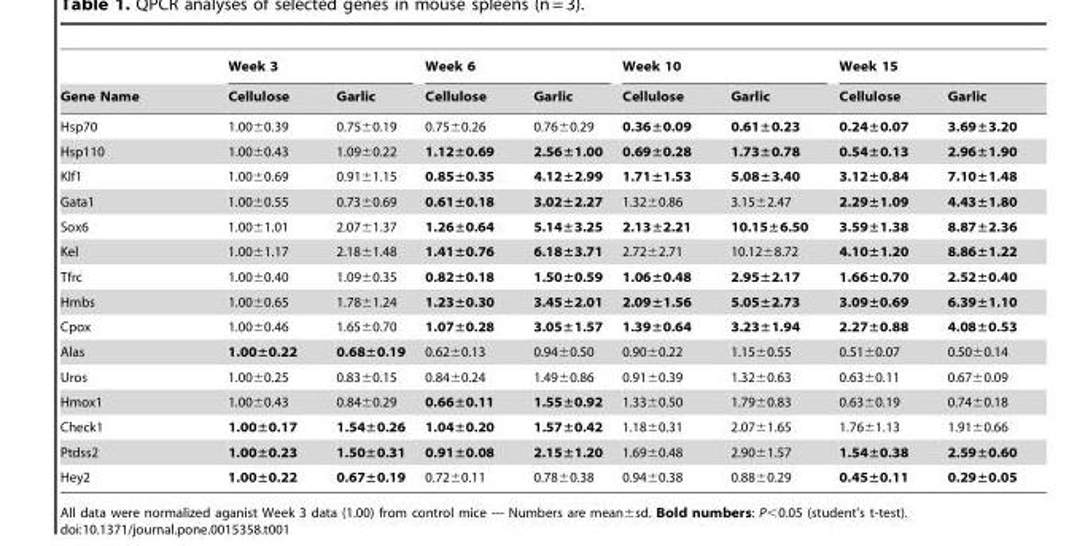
<table><thead><tr><td rowspan="2">Gene Name</td><td colspan="2">Week 3</td><td colspan="2">Week 6</td><td colspan="2">Week 10</td><td colspan="2">Week 15</td></tr><tr><td>Cellulose</td><td>Garlic</td><td>Cellulose</td><td>Garlic</td><td>Cellulose</td><td>Garlic</td><td>Cellulose</td><td>Garlic</td></tr></thead><tbody><tr><td>Hsp70</td><td>1.00±0.39</td><td>0.75±0.19</td><td>0.75±0.26</td><td>0.76±0.29</td><td>0.36±0.09</td><td>0.61±0.23</td><td>0.24±0.07</td><td>3.69±3.20</td></tr><tr><td>Hsp110</td><td>1.00±0.43</td><td>1.09±0.22</td><td>1.12±0.69</td><td>2.56±1.00</td><td>0.69±0.28</td><td>1.73±0.78</td><td>0.54±0.13</td><td>2.96±1.90</td></tr><tr><td>Klf1</td><td>1.00±0.69</td><td>0.91±1.15</td><td>0.85±0.35</td><td>4.12±2.99</td><td>1.71±1.53</td><td>5.08±3.40</td><td>3.12±0.84</td><td>7.10±1.48</td></tr><tr><td>Gata1</td><td>1.00±0.55</td><td>0.73±0.69</td><td>0.61±0.18</td><td>3.02±2.27</td><td>1.32±0.86</td><td>3.15±2.47</td><td>2.29±1.09</td><td>4.43±1.80</td></tr><tr><td>Sox6</td><td>1.00±1.01</td><td>2.07±1.37</td><td>1.26±0.64</td><td>5.14±3.25</td><td>2.13±2.21</td><td>10.15±6.50</td><td>3.59±1.38</td><td>8.87±2.36</td></tr><tr><td>Kel</td><td>1.00±1.17</td><td>2.18±1.48</td><td>1.41±0.76</td><td>6.18±3.71</td><td>2.72±2.71</td><td>10.12±8.72</td><td>4.10±1.20</td><td>8.86±1.22</td></tr><tr><td>Tfrc</td><td>1.00±0.40</td><td>1.09±0.35</td><td>0.82±0.18</td><td>1.50±0.59</td><td>1.06±0.48</td><td>2.95±2.17</td><td>1.66±0.70</td><td>2.52±0.40</td></tr><tr><td>Hmbs</td><td>1.00±0.65</td><td>1.78±1.24</td><td>1.23±0.30</td><td>3.45±2.01</td><td>2.09±1.56</td><td>5.05±2.73</td><td>3.09±0.69</td><td>6.39±1.10</td></tr><tr><td>Cpox</td><td>1.00±0.46</td><td>1.65±0.70</td><td>1.07±0.28</td><td>3.05±1.57</td><td>1.39±0.64</td><td>3.23±1.94</td><td>2.27±0.88</td><td>4.08±0.53</td></tr><tr><td>Alas</td><td>1.00±0.22</td><td>0.68±0.19</td><td>0.62±0.13</td><td>0.94±0.50</td><td>0.90±0.22</td><td>1.15±0.55</td><td>0.51±0.07</td><td>0.50±0.14</td></tr><tr><td>Uros</td><td>1.00±0.25</td><td>0.83±0.15</td><td>0.84±0.24</td><td>1.49±0.86</td><td>0.91±0.39</td><td>1.32±0.63</td><td>0.63±0.11</td><td>0.67±0.09</td></tr><tr><td>Hmox1</td><td>1.00±0.43</td><td>0.84±0.29</td><td>0.66±0.11</td><td>1.55±0.92</td><td>1.33±0.50</td><td>1.79±0.83</td><td>0.63±0.19</td><td>0.74±0.18</td></tr><tr><td>Check1</td><td>1.00±0.17</td><td>1.54±0.26</td><td>1.04±0.20</td><td>1.57±0.42</td><td>1.18±0.31</td><td>2.07±1.65</td><td>1.76±1.13</td><td>1.91±0.66</td></tr><tr><td>Ptdss2</td><td>1.00±0.23</td><td>1.50±0.31</td><td>0.91±0.08</td><td>2.15±1.20</td><td>1.69±0.48</td><td>2.90±1.57</td><td>1.54±0.38</td><td>2.59±0.60</td></tr><tr><td>Hey2</td><td>1.00±0.22</td><td>0.67±0.19</td><td>0.72±0.11</td><td>0.78±0.38</td><td>0.94±0.38</td><td>0.88±0.29</td><td>0.45±0.11</td><td>0.29±0.05</td></tr></tbody></table>